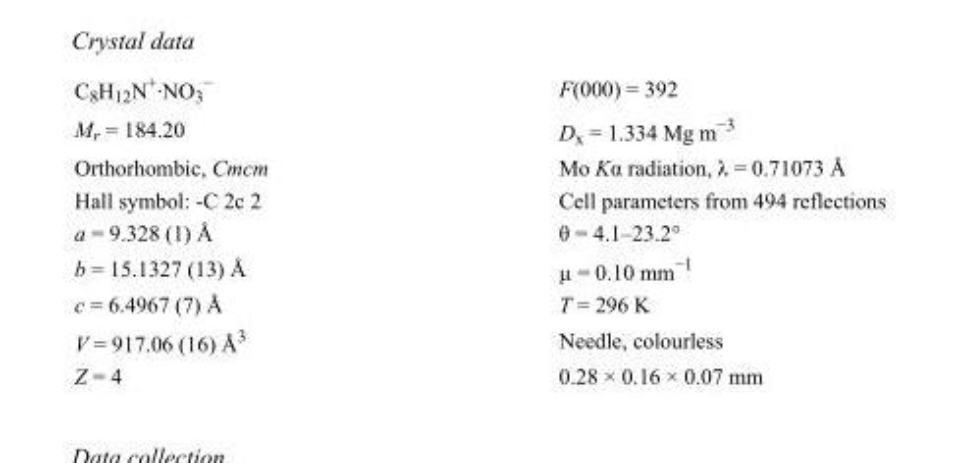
<table><tbody><tr><td>C<sub>8</sub>H<sub>12</sub>N<sup>+</sup>·NO<sub>3</sub> <sup>−</sup></td><td>F(000) = 392</td></tr><tr><td>M<sub>r</sub> = 184.20</td><td>D<sub>x</sub> = 1.334 Mg m<sup>−3</sup></td></tr><tr><td>Orthorhombic, Cmcm</td><td>Mo Kα radiation, λ = 0.71073 Å</td></tr><tr><td>Hall symbol: -C 2c 2</td><td>Cell parameters from 494 reflections</td></tr><tr><td>a = 9.328 (1) Å</td><td>θ = 4.1–23.2°</td></tr><tr><td>b = 15.1327 (13) Å</td><td>µ = 0.10 mm<sup>−1</sup></td></tr><tr><td>c = 6.4967 (7) Å</td><td>T = 296 K</td></tr><tr><td>V = 917.06 (16) Å<sup>3</sup></td><td>Needle, colourless</td></tr><tr><td>Z = 4</td><td>0.28 × 0.16 × 0.07 mm</td></tr></tbody></table>